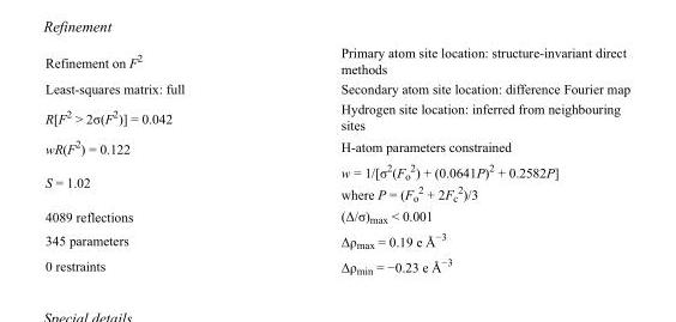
<table><tbody><tr><td>Refinement on F<sup>2</sup></td><td>Primary atom site location: structure-invariant direct methods</td></tr><tr><td>Least-squares matrix: full</td><td>Secondary atom site location: difference Fourier map</td></tr><tr><td>R[F<sup>2</sup> &gt; 2σ(F<sup>2</sup>)] = 0.042</td><td>Hydrogen site location: inferred from neighbouring sites</td></tr><tr><td>wR(F<sup>2</sup>) = 0.122</td><td>H-atom parameters constrained</td></tr><tr><td>S = 1.02</td><td>w = 1/[σ<sup>2</sup>(F<sub>o</sub> <sup>2</sup>) + (0.0641P)<sup>2</sup> + 0.2582P] where P = (F<sub>o</sub> <sup>2</sup> + 2F<sub>c</sub> <sup>2</sup>)/3</td></tr><tr><td>4089 reflections</td><td>(Δ/σ)<sub>max</sub> &lt; 0.001</td></tr><tr><td>345 parameters</td><td>Δρ<sub>max</sub> = 0.19 e Å<sup>−3</sup></td></tr><tr><td>0 restraints</td><td>Δρ<sub>min</sub> = −0.23 e Å<sup>−3</sup></td></tr></tbody></table>